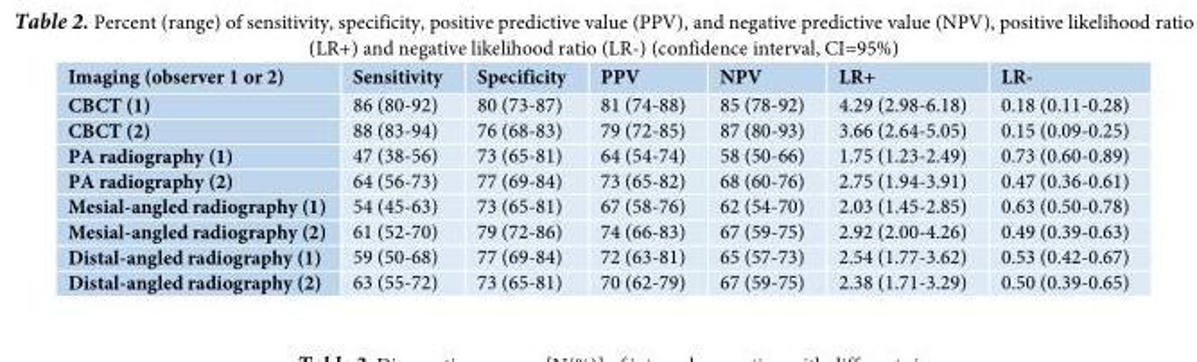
<table><thead><tr><td>Imaging (observer 1 or 2)</td><td>Sensitivity</td><td>Specificity</td><td>PPV</td><td>NPV</td><td>LR+</td><td>LR-</td></tr></thead><tbody><tr><td>CBCT (1)</td><td>86 (80-92)</td><td>80 (73-87)</td><td>81 (74-88)</td><td>85 (78-92)</td><td>4.29 (2.98-6.18)</td><td>0.18 (0.11-0.28)</td></tr><tr><td>CBCT (2)</td><td>88 (83-94)</td><td>76 (68-83)</td><td>79 (72-85)</td><td>87 (80-93)</td><td>3.66 (2.64-5.05)</td><td>0.15 (0.09-0.25)</td></tr><tr><td>PA radiography (1)</td><td>47 (38-56)</td><td>73 (65-81)</td><td>64 (54-74)</td><td>58 (50-66)</td><td>1.75 (1.23-2.49)</td><td>0.73 (0.60-0.89)</td></tr><tr><td>PA radiography (2)</td><td>64 (56-73)</td><td>77 (69-84)</td><td>73 (65-82)</td><td>68 (60-76)</td><td>2.75 (1.94-3.91)</td><td>0.47 (0.36-0.61)</td></tr><tr><td>Mesial-angled radiography (1)</td><td>54 (45-63)</td><td>73 (65-81)</td><td>67 (58-76)</td><td>62 (54-70)</td><td>2.03 (1.45-2.85)</td><td>0.63 (0.50-0.78)</td></tr><tr><td>Mesial-angled radiography (2)</td><td>61 (52-70)</td><td>79 (72-86)</td><td>74 (66-83)</td><td>67 (59-75)</td><td>2.92 (2.00-4.26)</td><td>0.49 (0.39-0.63)</td></tr><tr><td>Distal-angled radiography (1)</td><td>59 (50-68)</td><td>77 (69-84)</td><td>72 (63-81)</td><td>65 (57-73)</td><td>2.54 (1.77-3.62)</td><td>0.53 (0.42-0.67)</td></tr><tr><td>Distal-angled radiography (2)</td><td>63 (55-72)</td><td>73 (65-81)</td><td>70 (62-79)</td><td>67 (59-75)</td><td>2.38 (1.71-3.29)</td><td>0.50 (0.39-0.65)</td></tr></tbody></table>